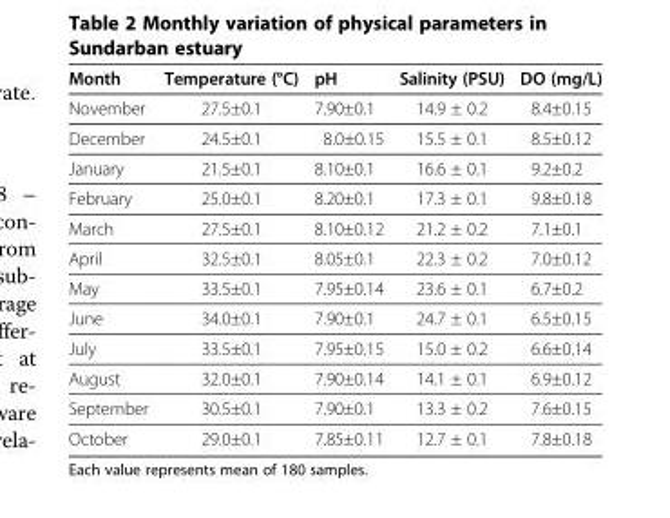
<table><thead><tr><td>Month</td><td>Temperature (°C)</td><td>pH</td><td>Salinity (PSU)</td><td>DO (mg/L)</td></tr></thead><tbody><tr><td>November</td><td>27.5±0.1</td><td>7.90±0.1</td><td>14.9 ± 0.2</td><td>8.4±0.15</td></tr><tr><td>December</td><td>24.5±0.1</td><td>8.0±0.15</td><td>15.5 ± 0.1</td><td>8.5±0.12</td></tr><tr><td>January</td><td>21.5±0.1</td><td>8.10±0.1</td><td>16.6 ± 0.1</td><td>9.2±0.2</td></tr><tr><td>February</td><td>25.0±0.1</td><td>8.20±0.1</td><td>17.3 ± 0.1</td><td>9.8±0.18</td></tr><tr><td>March</td><td>27.5±0.1</td><td>8.10±0.12</td><td>21.2 ± 0.2</td><td>7.1±0.1</td></tr><tr><td>April</td><td>32.5±0.1</td><td>8.05±0.1</td><td>22.3 ± 0.2</td><td>7.0±0.12</td></tr><tr><td>May</td><td>33.5±0.1</td><td>7.95±0.14</td><td>23.6 ± 0.1</td><td>6.7±0.2</td></tr><tr><td>June</td><td>34.0±0.1</td><td>7.90±0.1</td><td>24.7 ± 0.1</td><td>6.5±0.15</td></tr><tr><td>July</td><td>33.5±0.1</td><td>7.95±0.15</td><td>15.0 ± 0.2</td><td>6.6±0.14</td></tr><tr><td>August</td><td>32.0±0.1</td><td>7.90±0.14</td><td>14.1 ± 0.1</td><td>6.9±0.12</td></tr><tr><td>September</td><td>30.5±0.1</td><td>7.90±0.1</td><td>13.3 ± 0.2</td><td>7.6±0.15</td></tr><tr><td>October</td><td>29.0±0.1</td><td>7.85±0.11</td><td>12.7 ± 0.1</td><td>7.8±0.18</td></tr></tbody></table>